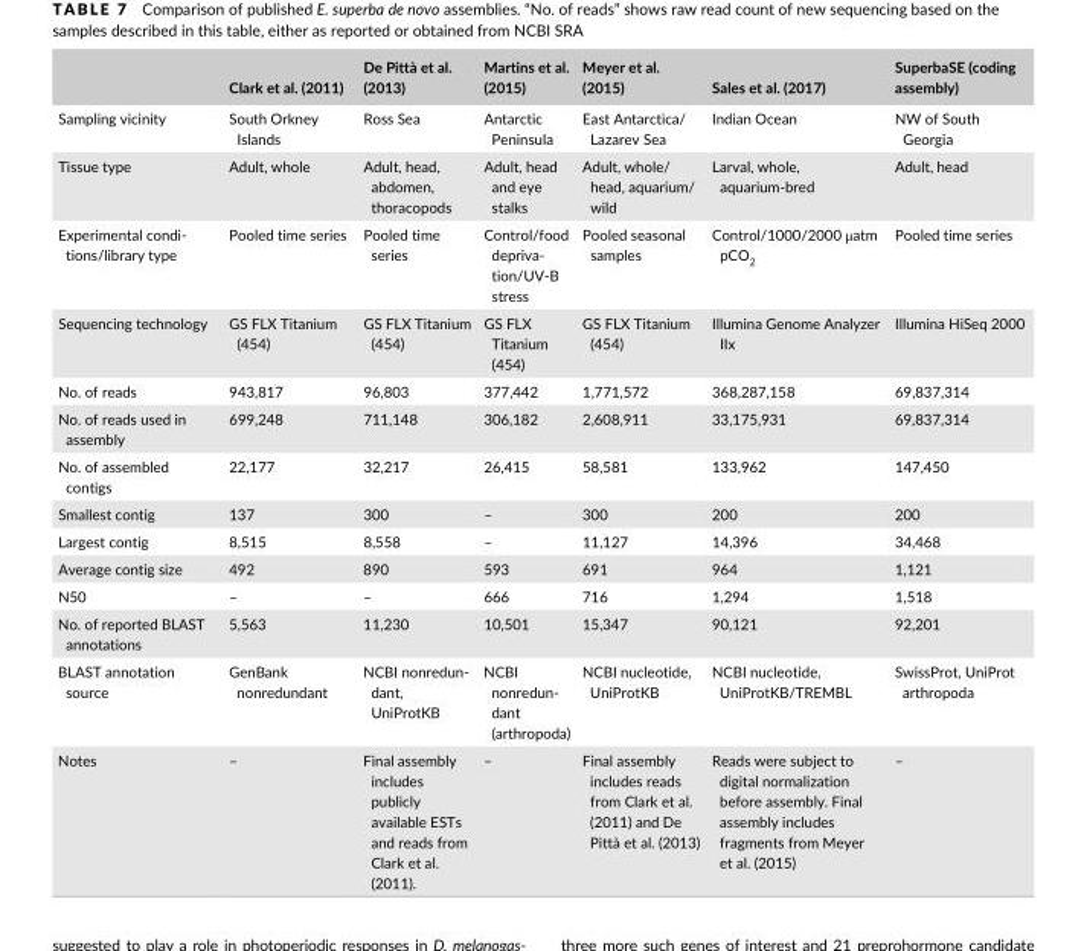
<table><thead><tr><td></td><td>Clark et al. (2011)</td><td>De Pittà et al. (2013)</td><td>Martins et al. (2015)</td><td>Meyer et al. (2015)</td><td>Sales et al. (2017)</td><td>SuperbaSE (coding assembly)</td></tr></thead><tbody><tr><td>Sampling vicinity</td><td>South Orkney Islands</td><td>Ross Sea</td><td>Antarctic Peninsula</td><td>East Antarctica/ Lazarev Sea</td><td>Indian Ocean</td><td>NW of South Georgia</td></tr><tr><td>Tissue type</td><td>Adult, whole</td><td>Adult, head, abdomen, thoracopods</td><td>Adult, head and eye stalks</td><td>Adult, whole/ head, aquarium/ wild</td><td>Larval, whole, aquarium- bred</td><td>Adult, head</td></tr><tr><td>Experimental condi- tions/library type</td><td>Pooled time series</td><td>Pooled time series</td><td>Control/food depriva- tion/UV- B stress</td><td>Pooled seasonal samples</td><td>Control/1000/2000 μatm pCO<sub>2</sub></td><td>Pooled time series</td></tr><tr><td>Sequencing technology</td><td>GS FLX Titanium (454)</td><td>GS FLX Titanium (454)</td><td>GS FLX Titanium (454)</td><td>GS FLX Titanium (454)</td><td>Illumina Genome Analyzer IIx</td><td>Illumina HiSeq 2000</td></tr><tr><td>No. of reads</td><td>943,817</td><td>96,803</td><td>377,442</td><td>1,771,572</td><td>368,287,158</td><td>69,837,314</td></tr><tr><td>No. of reads used in assembly</td><td>699,248</td><td>711,148</td><td>306,182</td><td>2,608,911</td><td>33,175,931</td><td>69,837,314</td></tr><tr><td>No. of assembled contigs</td><td>22,177</td><td>32,217</td><td>26,415</td><td>58,581</td><td>133,962</td><td>147,450</td></tr><tr><td>Smallest contig</td><td>137</td><td>300</td><td>–</td><td>300</td><td>200</td><td>200</td></tr><tr><td>Largest contig</td><td>8,515</td><td>8,558</td><td>–</td><td>11,127</td><td>14,396</td><td>34,468</td></tr><tr><td>Average contig size</td><td>492</td><td>890</td><td>593</td><td>691</td><td>964</td><td>1,121</td></tr><tr><td>N50</td><td>–</td><td>–</td><td>666</td><td>716</td><td>1,294</td><td>1,518</td></tr><tr><td>No. of reported BLAST annotations</td><td>5,563</td><td>11,230</td><td>10,501</td><td>15,347</td><td>90,121</td><td>92,201</td></tr><tr><td>BLAST annotation source</td><td>GenBank nonredundant</td><td>NCBI nonredun- dant, UniProtKB</td><td>NCBI nonredun- dant (arthropoda)</td><td>NCBI nucleotide, UniProtKB</td><td>NCBI nucleotide, UniProtKB/TREMBL</td><td>SwissProt, UniProt arthropoda</td></tr><tr><td>Notes</td><td>–</td><td>Final assembly includes publicly available ESTs and reads from Clark et al. (2011).</td><td>–</td><td>Final assembly includes reads from Clark et al. (2011) and De Pittà et al. (2013)</td><td>Reads were subject to digital normalization before assembly. Final assembly includes fragments from Meyer et al. (2015)</td><td>–</td></tr></tbody></table>